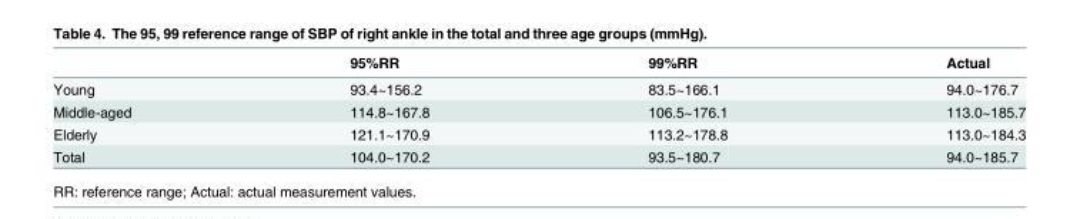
<table><thead><tr><td></td><td>95%RR</td><td>99%RR</td><td>Actual</td></tr></thead><tbody><tr><td>Young</td><td>93.4~156.2</td><td>83.5~166.1</td><td>94.0~176.7</td></tr><tr><td>Middle-aged</td><td>114.8~167.8</td><td>106.5~176.1</td><td>113.0~185.7</td></tr><tr><td>Elderly</td><td>121.1~170.9</td><td>113.2~178.8</td><td>113.0~184.3</td></tr><tr><td>Total</td><td>104.0~170.2</td><td>93.5~180.7</td><td>94.0~185.7</td></tr></tbody></table>